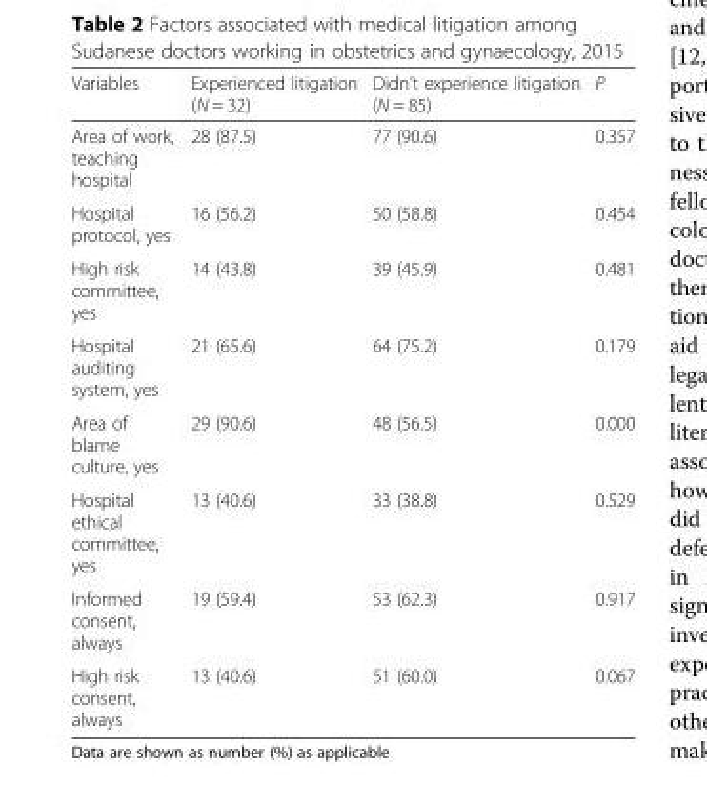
<table><thead><tr><td>Variables</td><td>Experienced litigation (N = 32)</td><td>Didn’t experience litigation (N = 85)</td><td>P</td></tr></thead><tbody><tr><td>Area of work, teaching hospital</td><td>28 (87.5)</td><td>77 (90.6)</td><td>0.357</td></tr><tr><td>Hospital protocol, yes</td><td>16 (56.2)</td><td>50 (58.8)</td><td>0.454</td></tr><tr><td>High risk committee, yes</td><td>14 (43.8)</td><td>39 (45.9)</td><td>0.481</td></tr><tr><td>Hospital auditing system, yes</td><td>21 (65.6)</td><td>64 (75.2)</td><td>0.179</td></tr><tr><td>Area of blame culture, yes</td><td>29 (90.6)</td><td>48 (56.5)</td><td>0.000</td></tr><tr><td>Hospital ethical committee, yes</td><td>13 (40.6)</td><td>33 (38.8)</td><td>0.529</td></tr><tr><td>Informed consent, always</td><td>19 (59.4)</td><td>53 (62.3)</td><td>0.917</td></tr><tr><td>High risk consent, always</td><td>13 (40.6)</td><td>51 (60.0)</td><td>0.067</td></tr></tbody></table>